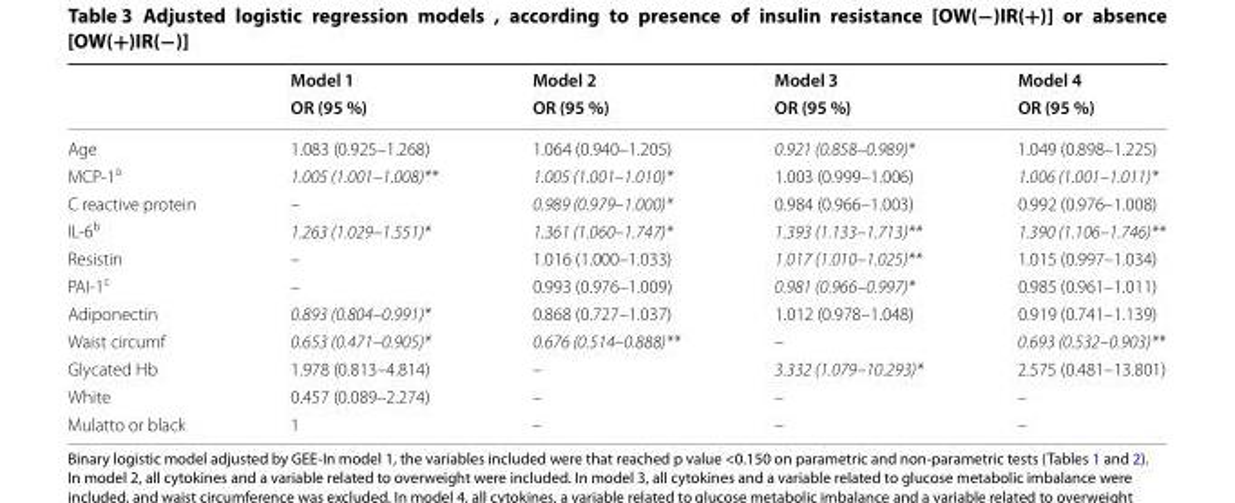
<table><thead><tr><td rowspan="2"></td><td rowspan="2">Model 1 OR (95 %)</td><td rowspan="2">Model 2 OR (95 %)</td><td rowspan="2">Model 3 OR (95 %)</td><td rowspan="2">Model 4 OR (95 %)</td></tr><tr></tr></thead><tbody><tr><td>Age</td><td>1.083 (0.925–1.268)</td><td>1.064 (0.940–1.205)</td><td>0.921 (0.858–0.989)*</td><td>1.049 (0.898–1.225)</td></tr><tr><td>MCP-1<sup>a</sup></td><td>1.005 (1.001–1.008)**</td><td>1.005 (1.001–1.010)*</td><td>1.003 (0.999–1.006)</td><td>1.006 (1.001–1.011)*</td></tr><tr><td>C reactive protein</td><td>–</td><td>0.989 (0.979–1.000)*</td><td>0.984 (0.966–1.003)</td><td>0.992 (0.976–1.008)</td></tr><tr><td>IL-6<sup>b</sup></td><td>1.263 (1.029–1.551)*</td><td>1.361 (1.060–1.747)*</td><td>1.393 (1.133–1.713)**</td><td>1.390 (1.106–1.746)**</td></tr><tr><td>Resistin</td><td>–</td><td>1.016 (1.000–1.033)</td><td>1.017 (1.010–1.025)**</td><td>1.015 (0.997–1.034)</td></tr><tr><td>PAI-1<sup>c</sup></td><td>–</td><td>0.993 (0.976–1.009)</td><td>0.981 (0.966–0.997)*</td><td>0.985 (0.961–1.011)</td></tr><tr><td>Adiponectin</td><td>0.893 (0.804–0.991)*</td><td>0.868 (0.727–1.037)</td><td>1.012 (0.978–1.048)</td><td>0.919 (0.741–1.139)</td></tr><tr><td>Waist circumf</td><td>0.653 (0.471–0.905)*</td><td>0.676 (0.514–0.888)**</td><td>–</td><td>0.693 (0.532–0.903)**</td></tr><tr><td>Glycated Hb</td><td>1.978 (0.813–4.814)</td><td>–</td><td>3.332 (1.079–10.293)*</td><td>2.575 (0.481–13.801)</td></tr><tr><td>White</td><td>0.457 (0.089–2.274)</td><td>–</td><td>–</td><td>–</td></tr><tr><td>Mulatto or black</td><td>1</td><td>–</td><td>–</td><td>–</td></tr></tbody></table>